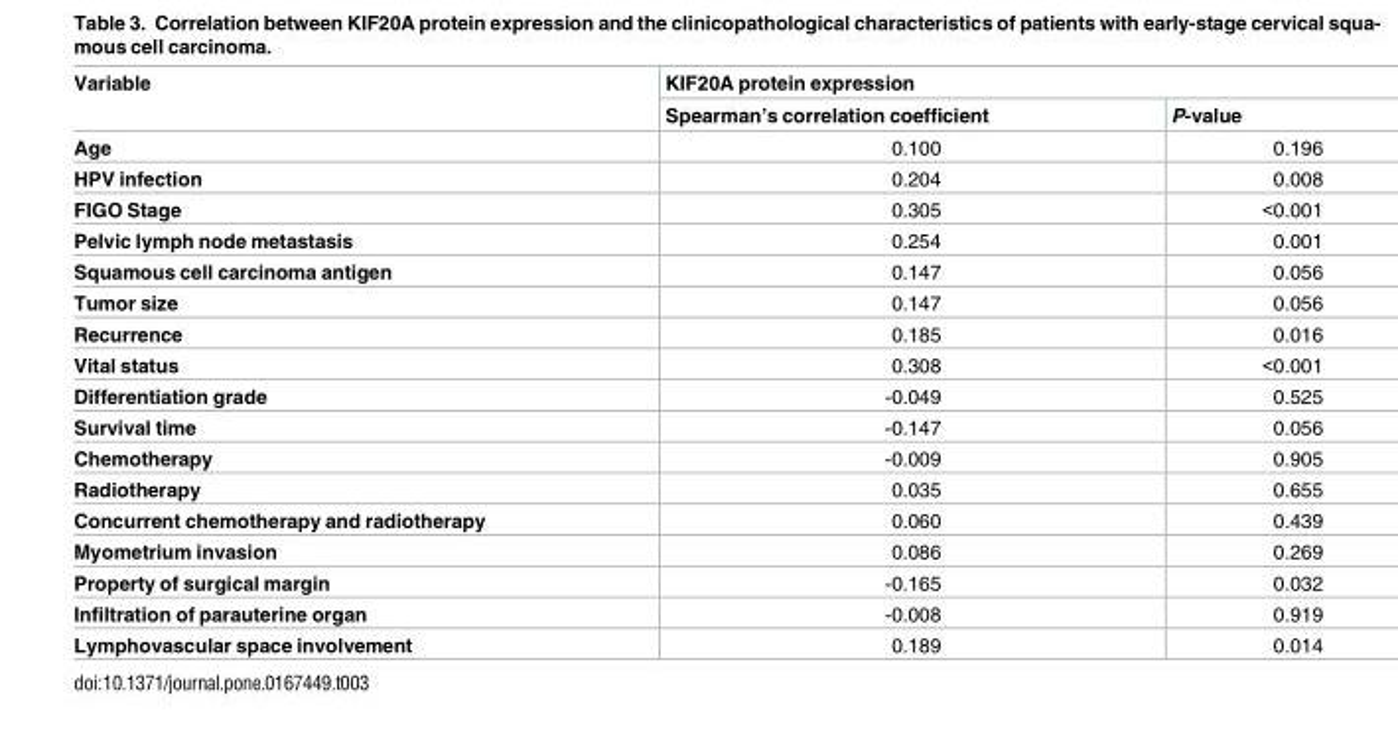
<table><thead><tr><td rowspan="2">Variable</td><td colspan="2">KIF20A protein expression</td></tr><tr><td>Spearman’s correlation coefficient</td><td>P-value</td></tr></thead><tbody><tr><td>Age</td><td>0.100</td><td>0.196</td></tr><tr><td>HPV infection</td><td>0.204</td><td>0.008</td></tr><tr><td>FIGO Stage</td><td>0.305</td><td>&lt;0.001</td></tr><tr><td>Pelvic lymph node metastasis</td><td>0.254</td><td>0.001</td></tr><tr><td>Squamous cell carcinoma antigen</td><td>0.147</td><td>0.056</td></tr><tr><td>Tumor size</td><td>0.147</td><td>0.056</td></tr><tr><td>Recurrence</td><td>0.185</td><td>0.016</td></tr><tr><td>Vital status</td><td>0.308</td><td>&lt;0.001</td></tr><tr><td>Differentiation grade</td><td>-0.049</td><td>0.525</td></tr><tr><td>Survival time</td><td>-0.147</td><td>0.056</td></tr><tr><td>Chemotherapy</td><td>-0.009</td><td>0.905</td></tr><tr><td>Radiotherapy</td><td>0.035</td><td>0.655</td></tr><tr><td>Concurrent chemotherapy and radiotherapy</td><td>0.060</td><td>0.439</td></tr><tr><td>Myometrium invasion</td><td>0.086</td><td>0.269</td></tr><tr><td>Property of surgical margin</td><td>-0.165</td><td>0.032</td></tr><tr><td>Infiltration of parauterine organ</td><td>-0.008</td><td>0.919</td></tr><tr><td>Lymphovascular space involvement</td><td>0.189</td><td>0.014</td></tr></tbody></table>